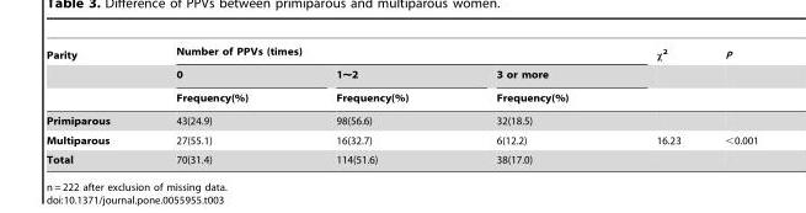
<table><thead><tr><td rowspan="3">Parity</td><td colspan="3">Number of PPVs (times)</td><td rowspan="3">x2</td><td rowspan="3">P</td></tr><tr><td rowspan="2">0 Frequency(%)</td><td rowspan="2">1∼2 Frequency(%)</td><td rowspan="2">3 or more Frequency(%)</td></tr><tr></tr></thead><tbody><tr><td>Primiparous</td><td>43(24.9)</td><td>98(56.6)</td><td>32(18.5)</td><td></td><td></td></tr><tr><td>Multiparous</td><td>27(55.1)</td><td>16(32.7)</td><td>6(12.2)</td><td>16.23</td><td>&lt;0.001</td></tr><tr><td>Total</td><td>70(31.4)</td><td>114(51.6)</td><td>38(17.0)</td><td></td><td></td></tr></tbody></table>